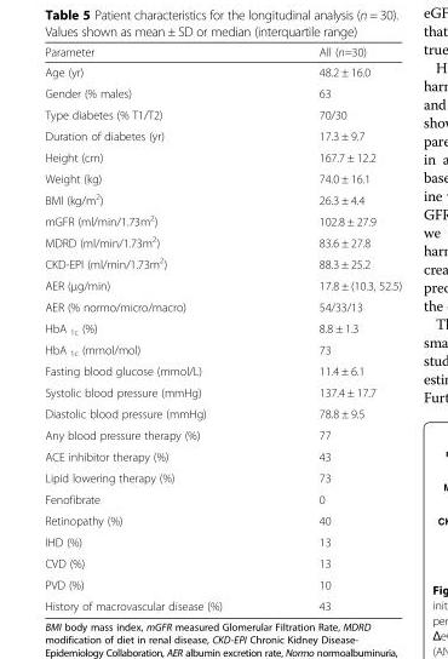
<table><thead><tr><td>Parameter</td><td>All (n=30)</td></tr></thead><tbody><tr><td>Age (yr)</td><td>48.2 ± 16.0</td></tr><tr><td>Gender (% males)</td><td>63</td></tr><tr><td>Type diabetes (% T1/T2)</td><td>70/30</td></tr><tr><td>Duration of diabetes (yr)</td><td>17.3 ± 9.7</td></tr><tr><td>Height (cm)</td><td>167.7 ± 12.2</td></tr><tr><td>Weight (kg)</td><td>74.0 ± 16.1</td></tr><tr><td>BMI (kg/m<sup>2</sup>)</td><td>26.3 ± 4.4</td></tr><tr><td>mGFR (ml/min/1.73m<sup>2</sup>)</td><td>102.8 ± 27.9</td></tr><tr><td>MDRD (ml/min/1.73m<sup>2</sup>)</td><td>83.6 ± 27.8</td></tr><tr><td>CKD-EPI (ml/min/1.73m<sup>2</sup>)</td><td>88.3 ± 25.2</td></tr><tr><td>AER (μg/min)</td><td>17.8 ± (10.3, 52.5)</td></tr><tr><td>AER (% normo/micro/macro)</td><td>54/33/13</td></tr><tr><td>HbA <sub>1c</sub> (%)</td><td>8.8 ± 1.3</td></tr><tr><td>HbA <sub>1c</sub> (mmol/mol)</td><td>73</td></tr><tr><td>Fasting blood glucose (mmol/L)</td><td>11.4 ± 6.1</td></tr><tr><td>Systolic blood pressure (mmHg)</td><td>137.4 ± 17.7</td></tr><tr><td>Diastolic blood pressure (mmHg)</td><td>78.8 ± 9.5</td></tr><tr><td>Any blood pressure therapy (%)</td><td>77</td></tr><tr><td>ACE inhibitor therapy (%)</td><td>43</td></tr><tr><td>Lipid lowering therapy (%)</td><td>73</td></tr><tr><td>Fenofibrate</td><td>0</td></tr><tr><td>Retinopathy (%)</td><td>40</td></tr><tr><td>IHD (%)</td><td>13</td></tr><tr><td>CVD (%)</td><td>13</td></tr><tr><td>PVD (%)</td><td>10</td></tr><tr><td>History of macrovascular disease (%)</td><td>43</td></tr></tbody></table>